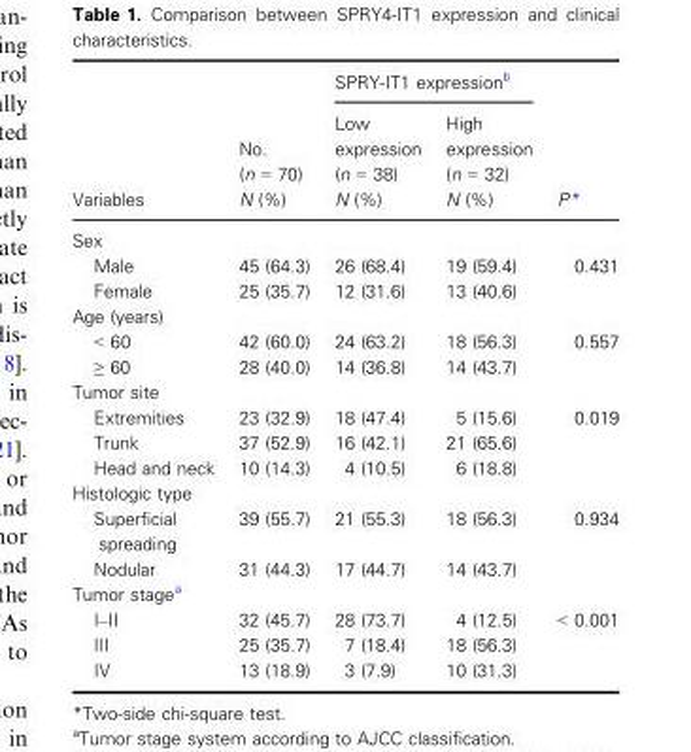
<table><thead><tr><td rowspan="2">Variables</td><td rowspan="2">No. (n = 70) N (%)</td><td colspan="2">SPRY-IT1 expression<sup>b</sup></td><td rowspan="2">P*</td></tr><tr><td>Low expression (n = 38) N (%)</td><td>High expression (n = 32) N (%)</td></tr></thead><tbody><tr><td colspan="5">Sex</td></tr><tr><td>Male</td><td>45 (64.3)</td><td>26 (68.4)</td><td>19 (59.4)</td><td rowspan="2">0.431</td></tr><tr><td>Female</td><td>25 (35.7)</td><td>12 (31.6)</td><td>13 (40.6)</td></tr><tr><td colspan="5">Age (years)</td></tr><tr><td>&lt; 60</td><td>42 (60.0)</td><td>24 (63.2)</td><td>18 (56.3)</td><td rowspan="2">0.557</td></tr><tr><td>≥ 60</td><td>28 (40.0)</td><td>14 (36.8)</td><td>14 (43.7)</td></tr><tr><td colspan="5">Tumor site</td></tr><tr><td>Extremities</td><td>23 (32.9)</td><td>18 (47.4)</td><td>5 (15.6)</td><td rowspan="2">0.019</td></tr><tr><td>Trunk</td><td>37 (52.9)</td><td>16 (42.1)</td><td>21 (65.6)</td></tr><tr><td>Head and neck</td><td>10 (14.3)</td><td>4 (10.5)</td><td>6 (18.8)</td><td></td></tr><tr><td colspan="5">Histologic type</td></tr><tr><td>Superficial spreading</td><td>39 (55.7)</td><td>21 (55.3)</td><td>18 (56.3)</td><td rowspan="2">0.934</td></tr><tr><td>Nodular</td><td>31 (44.3)</td><td>17 (44.7)</td><td>14 (43.7)</td></tr><tr><td colspan="5">Tumor stage<sup>a</sup></td></tr><tr><td>I–II</td><td>32 (45.7)</td><td>28 (73.7)</td><td>4 (12.5)</td><td rowspan="3">&lt; 0.001</td></tr><tr><td>III</td><td>25 (35.7)</td><td>7 (18.4)</td><td>18 (56.3)</td></tr><tr><td>IV</td><td>13 (18.9)</td><td>3 (7.9)</td><td>10 (31.3)</td></tr></tbody></table>